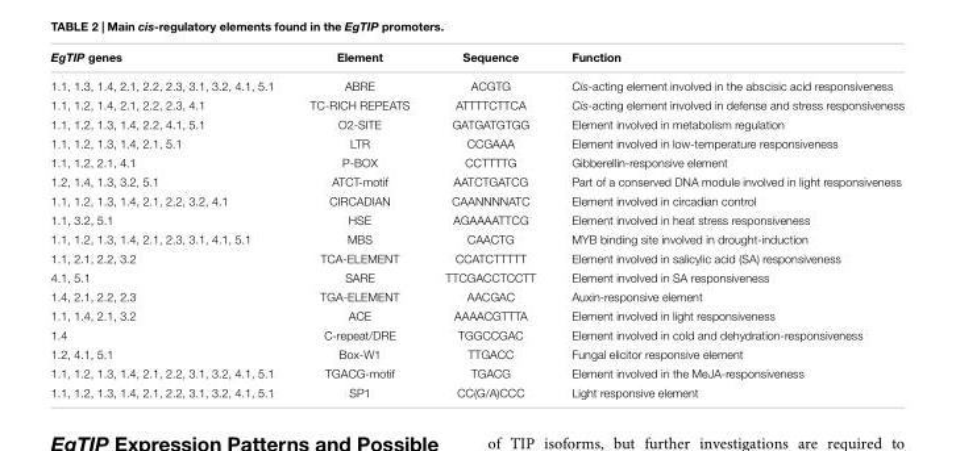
<table><thead><tr><td>EgTIP genes</td><td>Element</td><td>Sequence</td><td>Function</td></tr></thead><tbody><tr><td>1.1, 1.3, 1.4, 2.1, 2.2, 2.3, 3.1, 3.2, 4.1, 5.1</td><td>ABRE</td><td>ACGTG</td><td>Cis-acting element involved in the abscisic acid responsiveness</td></tr><tr><td>1.1, 1.2, 1.4, 2.1, 2.2, 2.3, 4.1</td><td>TC-RICH REPEATS</td><td>ATTTTCTTCA</td><td>Cis-acting element involved in defense and stress responsiveness</td></tr><tr><td>1.1, 1.2, 1.3, 1.4, 2.2, 4.1, 5.1</td><td>O2-SITE</td><td>GATGATGTGG</td><td>Element involved in metabolism regulation</td></tr><tr><td>1.1, 1.2, 1.3, 1.4, 2.1, 5.1</td><td>LTR</td><td>CCGAAA</td><td>Element involved in low-temperature responsiveness</td></tr><tr><td>1.1, 1.2, 2.1, 4.1</td><td>P-BOX</td><td>CCTTTTG</td><td>Gibberellin-responsive element</td></tr><tr><td>1.2, 1.4, 1.3, 3.2, 5.1</td><td>ATCT-motif</td><td>AATCTGATCG</td><td>Part of a conserved DNA module involved in light responsiveness</td></tr><tr><td>1.1, 1.2, 1.3, 1.4, 2.1, 2.2, 3.2, 4.1</td><td>CIRCADIAN</td><td>CAANNNNATC</td><td>Element involved in circadian control</td></tr><tr><td>1.1, 3.2, 5.1</td><td>HSE</td><td>AGAAAATTCG</td><td>Element involved in heat stress responsiveness</td></tr><tr><td>1.1, 1.2, 1.3, 1.4, 2.1, 2.3, 3.1, 4.1, 5.1</td><td>MBS</td><td>CAACTG</td><td>MYB binding site involved in drought-induction</td></tr><tr><td>1.1, 2.1, 2.2, 3.2</td><td>TCA-ELEMENT</td><td>CCATCTTTTT</td><td>Element involved in salicylic acid (SA) responsiveness</td></tr><tr><td>4.1, 5.1</td><td>SARE</td><td>TTCGACCTCCTT</td><td>Element involved in SA responsiveness</td></tr><tr><td>1.4, 2.1, 2.2, 2.3</td><td>TGA-ELEMENT</td><td>AACGAC</td><td>Auxin-responsive element</td></tr><tr><td>1.1, 1.4, 2.1, 3.2</td><td>ACE</td><td>AAAACGTTTA</td><td>Element involved in light responsiveness</td></tr><tr><td>1.4</td><td>C-repeat/DRE</td><td>TGGCCGAC</td><td>Element involved in cold and dehydration-responsiveness</td></tr><tr><td>1.2, 4.1, 5.1</td><td>Box-W1</td><td>TTGACC</td><td>Fungal elicitor responsive element</td></tr><tr><td>1.1, 1.2, 1.3, 1.4, 2.1, 2.2, 3.1, 3.2, 4.1, 5.1</td><td>TGACG-motif</td><td>TGACG</td><td>Element involved in the MeJA-responsiveness</td></tr><tr><td>1.1, 1.2, 1.3, 1.4, 2.1, 2.2, 3.1, 3.2, 4.1, 5.1</td><td>SP1</td><td>CC(G/A)CCC</td><td>Light responsive element</td></tr></tbody></table>